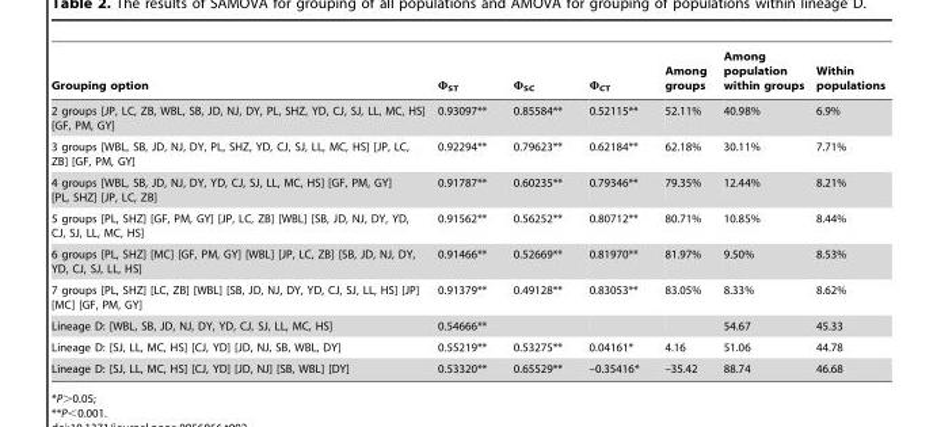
<table><thead><tr><td>Grouping option</td><td>Φ<sub>ST</sub></td><td>Φ<sub>SC</sub></td><td>Φ<sub>CT</sub></td><td>Among groups</td><td>Among population within groups</td><td>Within populations</td></tr></thead><tbody><tr><td>2 groups [JP, LC, ZB, WBL, SB, JD, NJ, DY, PL, SHZ, YD, CJ, SJ, LL, MC, HS] [GF, PM, GY]</td><td>0.93097**</td><td>0.85584**</td><td>0.52115**</td><td>52.11%</td><td>40.98%</td><td>6.9%</td></tr><tr><td>3 groups [WBL, SB, JD, NJ, DY, PL, SHZ, YD, CJ, SJ, LL, MC, HS] [JP, LC, ZB] [GF, PM, GY]</td><td>0.92294**</td><td>0.79623**</td><td>0.62184**</td><td>62.18%</td><td>30.11%</td><td>7.71%</td></tr><tr><td>4 groups [WBL, SB, JD, NJ, DY, YD, CJ, SJ, LL, MC, HS] [GF, PM, GY] [PL, SHZ] [JP, LC, ZB]</td><td>0.91787**</td><td>0.60235**</td><td>0.79346**</td><td>79.35%</td><td>12.44%</td><td>8.21%</td></tr><tr><td>5 groups [PL, SHZ] [GF, PM, GY] [JP, LC, ZB] [WBL] [SB, JD, NJ, DY, YD, CJ, SJ, LL, MC, HS]</td><td>0.91562**</td><td>0.56252**</td><td>0.80712**</td><td>80.71%</td><td>10.85%</td><td>8.44%</td></tr><tr><td>6 groups [PL, SHZ] [MC] [GF, PM, GY] [WBL] [JP, LC, ZB] [SB, JD, NJ, DY, YD, CJ, SJ, LL, HS]</td><td>0.91466**</td><td>0.52669**</td><td>0.81970**</td><td>81.97%</td><td>9.50%</td><td>8.53%</td></tr><tr><td>7 groups [PL, SHZ] [LC, ZB] [WBL] [SB, JD, NJ, DY, YD, CJ, SJ, LL, HS] [JP] [MC] [GF, PM, GY]</td><td>0.91379**</td><td>0.49128**</td><td>0.83053**</td><td>83.05%</td><td>8.33%</td><td>8.62%</td></tr><tr><td>Lineage D: [WBL, SB, JD, NJ, DY, YD, CJ, SJ, LL, MC, HS]</td><td>0.54666**</td><td></td><td></td><td></td><td>54.67</td><td>45.33</td></tr><tr><td>Lineage D: [SJ, LL, MC, HS] [CJ, YD] [JD, NJ, SB, WBL, DY]</td><td>0.55219**</td><td>0.53275**</td><td>0.04161*</td><td>4.16</td><td>51.06</td><td>44.78</td></tr><tr><td>Lineage D: [SJ, LL, MC, HS] [CJ, YD] [JD, NJ] [SB, WBL] [DY]</td><td>0.53320**</td><td>0.65529**</td><td>–0.35416*</td><td>–35.42</td><td>88.74</td><td>46.68</td></tr></tbody></table>